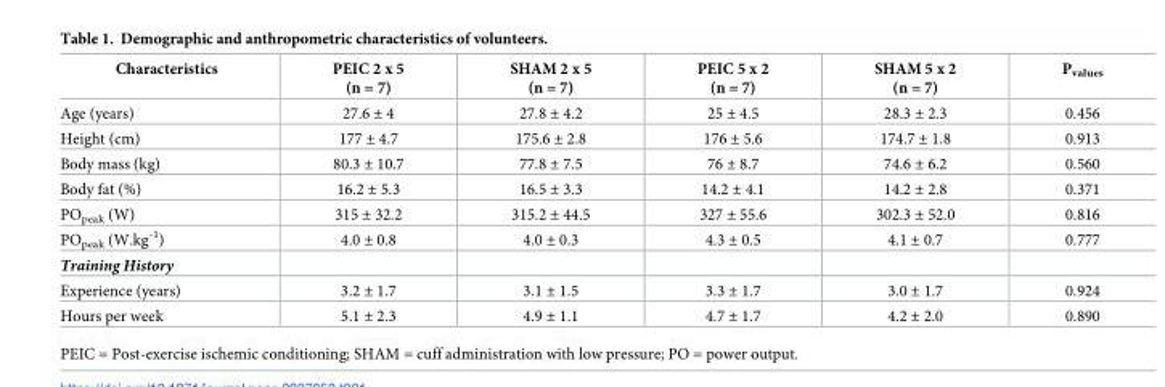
<table><thead><tr><td>Characteristics</td><td>PEIC 2 x 5 (n = 7)</td><td>SHAM 2 x 5 (n = 7)</td><td>PEIC 5 x 2 (n = 7)</td><td>SHAM 5 x 2 (n = 7)</td><td>P<sub>values</sub></td></tr></thead><tbody><tr><td>Age (years)</td><td>27.6 ± 4</td><td>27.8 ± 4.2</td><td>25 ± 4.5</td><td>28.3 ± 2.3</td><td>0.456</td></tr><tr><td>Height (cm)</td><td>177 ± 4.7</td><td>175.6 ± 2.8</td><td>176 ± 5.6</td><td>174.7 ± 1.8</td><td>0.913</td></tr><tr><td>Body mass (kg)</td><td>80.3 ± 10.7</td><td>77.8 ± 7.5</td><td>76 ± 8.7</td><td>74.6 ± 6.2</td><td>0.560</td></tr><tr><td>Body fat (%)</td><td>16.2 ± 5.3</td><td>16.5 ± 3.3</td><td>14.2 ± 4.1</td><td>14.2 ± 2.8</td><td>0.371</td></tr><tr><td>PO<sub>peak</sub> (W)</td><td>315 ± 32.2</td><td>315.2 ± 44.5</td><td>327 ± 55.6</td><td>302.3 ± 52.0</td><td>0.816</td></tr><tr><td>PO<sub>peak</sub> (W.kg<sup>-1</sup>)</td><td>4.0 ± 0.8</td><td>4.0 ± 0.3</td><td>4.3 ± 0.5</td><td>4.1 ± 0.7</td><td>0.777</td></tr><tr><td colspan="6">Training History</td></tr><tr><td>Experience (years)</td><td>3.2 ± 1.7</td><td>3.1 ± 1.5</td><td>3.3 ± 1.7</td><td>3.0 ± 1.7</td><td>0.924</td></tr><tr><td>Hours per week</td><td>5.1 ± 2.3</td><td>4.9 ± 1.1</td><td>4.7 ± 1.7</td><td>4.2 ± 2.0</td><td>0.890</td></tr></tbody></table>